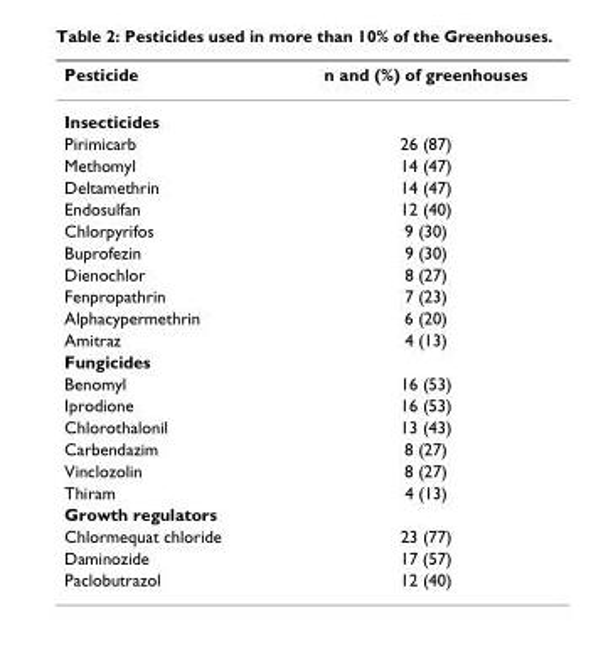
<table><thead><tr><td>Pesticide</td><td>n and (%) of greenhouses</td></tr></thead><tbody><tr><td colspan="2">Insecticides</td></tr><tr><td>Pirimicarb</td><td>26 (87)</td></tr><tr><td>Methomyl</td><td>14 (47)</td></tr><tr><td>Deltamethrin</td><td>14 (47)</td></tr><tr><td>Endosulfan</td><td>12 (40)</td></tr><tr><td>Chlorpyrifos</td><td>9 (30)</td></tr><tr><td>Buprofezin</td><td>9 (30)</td></tr><tr><td>Dienochlor</td><td>8 (27)</td></tr><tr><td>Fenpropathrin</td><td>7 (23)</td></tr><tr><td>Alphacypermethrin</td><td>6 (20)</td></tr><tr><td>Amitraz</td><td>4 (13)</td></tr><tr><td colspan="2">Fungicides</td></tr><tr><td>Benomyl</td><td>16 (53)</td></tr><tr><td>Iprodione</td><td>16 (53)</td></tr><tr><td>Chlorothalonil</td><td>13 (43)</td></tr><tr><td>Carbendazim</td><td>8 (27)</td></tr><tr><td>Vinclozolin</td><td>8 (27)</td></tr><tr><td>Thiram</td><td>4 (13)</td></tr><tr><td colspan="2">Growth regulators</td></tr><tr><td>Chlormequat chloride</td><td>23 (77)</td></tr><tr><td>Daminozide</td><td>17 (57)</td></tr><tr><td>Paclobutrazol</td><td>12 (40)</td></tr></tbody></table>